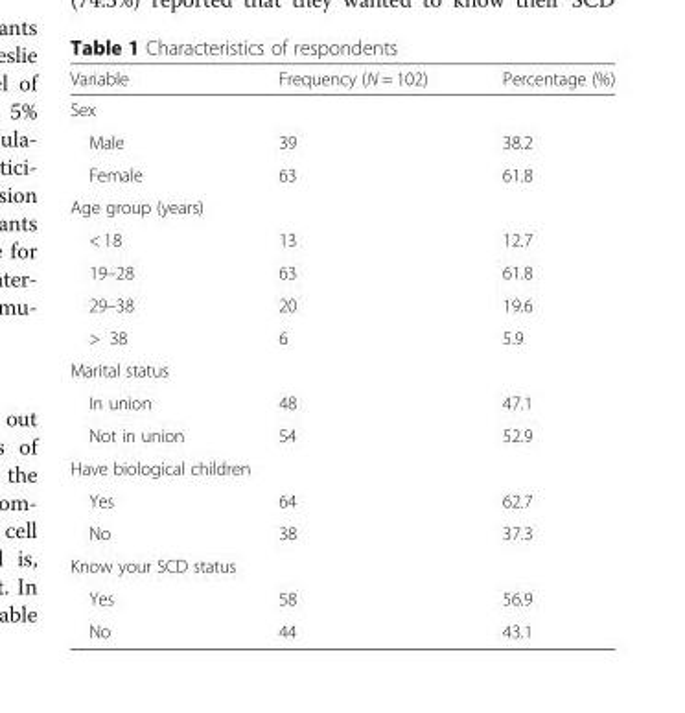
<table><thead><tr><td>Variable</td><td>Frequency (N = 102)</td><td>Percentage (%)</td></tr></thead><tbody><tr><td colspan="3">Sex</td></tr><tr><td>Male</td><td>39</td><td>38.2</td></tr><tr><td>Female</td><td>63</td><td>61.8</td></tr><tr><td colspan="3">Age group (years)</td></tr><tr><td>&lt; 18</td><td>13</td><td>12.7</td></tr><tr><td>19–28</td><td>63</td><td>61.8</td></tr><tr><td>29–38</td><td>20</td><td>19.6</td></tr><tr><td>&gt; 38</td><td>6</td><td>5.9</td></tr><tr><td colspan="3">Marital status</td></tr><tr><td>In union</td><td>48</td><td>47.1</td></tr><tr><td>Not in union</td><td>54</td><td>52.9</td></tr><tr><td colspan="3">Have biological children</td></tr><tr><td>Yes</td><td>64</td><td>62.7</td></tr><tr><td>No</td><td>38</td><td>37.3</td></tr><tr><td colspan="3">Know your SCD status</td></tr><tr><td>Yes</td><td>58</td><td>56.9</td></tr><tr><td>No</td><td>44</td><td>43.1</td></tr></tbody></table>